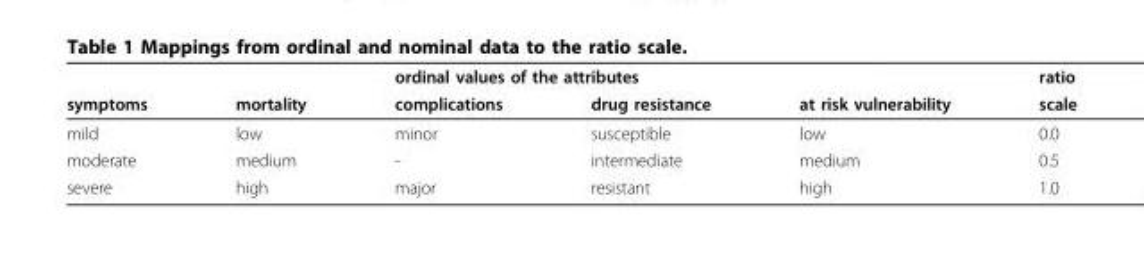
<table><thead><tr><td rowspan="2">symptoms</td><td rowspan="2">mortality</td><td colspan="3">ordinal values of the attributes</td><td rowspan="2">ratio scale</td></tr><tr><td>complications</td><td>drug resistance</td><td>at risk vulnerability</td></tr></thead><tbody><tr><td>mild</td><td>low</td><td>minor</td><td>susceptible</td><td>low</td><td>0.0</td></tr><tr><td>moderate</td><td>medium</td><td>-</td><td>intermediate</td><td>medium</td><td>0.5</td></tr><tr><td>severe</td><td>high</td><td>major</td><td>resistant</td><td>high</td><td>1.0</td></tr></tbody></table>